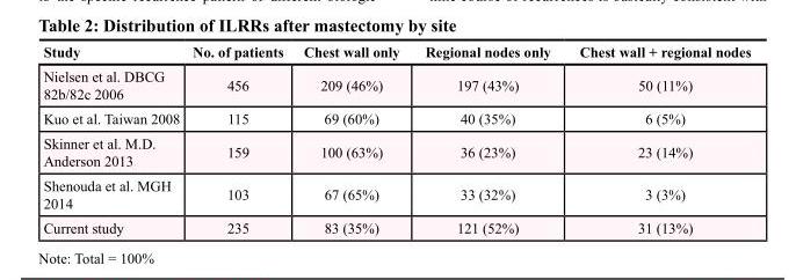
<table><thead><tr><td>Study</td><td>No. of patients</td><td>Chest wall only</td><td>Regional nodes only</td><td>Chest wall + regional nodes</td></tr></thead><tbody><tr><td>Nielsen et al. DBCG 82b/82c 2006</td><td>456</td><td>209 (46%)</td><td>197 (43%)</td><td>50 (11%)</td></tr><tr><td>Kuo et al. Taiwan 2008</td><td>115</td><td>69 (60%)</td><td>40 (35%)</td><td>6 (5%)</td></tr><tr><td>Skinner et al. M.D. Anderson 2013</td><td>159</td><td>100 (63%)</td><td>36 (23%)</td><td>23 (14%)</td></tr><tr><td>Shenouda et al. MGH 2014</td><td>103</td><td>67 (65%)</td><td>33 (32%)</td><td>3 (3%)</td></tr><tr><td>Current study</td><td>235</td><td>83 (35%)</td><td>121 (52%)</td><td>31 (13%)</td></tr></tbody></table>